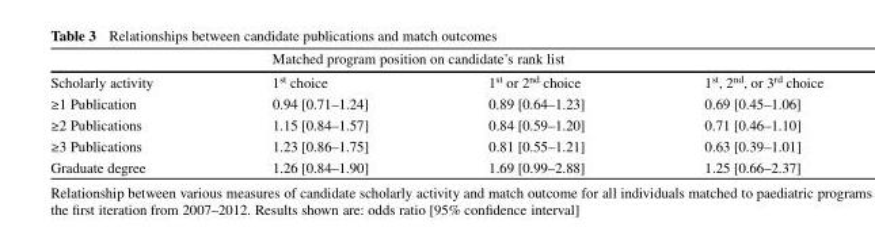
<table><thead><tr><td rowspan="2">Scholarly activity</td><td colspan="3">Matched program position on candidate’s rank list</td></tr><tr><td>1<sup>st</sup> choice</td><td>1<sup>st</sup> or 2<sup>nd</sup> choice</td><td>1<sup>st</sup>, 2<sup>nd</sup>, or 3<sup>rd</sup> choice</td></tr></thead><tbody><tr><td>≥1 Publication</td><td>0.94 [0.71–1.24]</td><td>0.89 [0.64–1.23]</td><td>0.69 [0.45–1.06]</td></tr><tr><td>≥2 Publications</td><td>1.15 [0.84–1.57]</td><td>0.84 [0.59–1.20]</td><td>0.71 [0.46–1.10]</td></tr><tr><td>≥3 Publications</td><td>1.23 [0.86–1.75]</td><td>0.81 [0.55–1.21]</td><td>0.63 [0.39–1.01]</td></tr><tr><td>Graduate degree</td><td>1.26 [0.84–1.90]</td><td>1.69 [0.99–2.88]</td><td>1.25 [0.66–2.37]</td></tr></tbody></table>